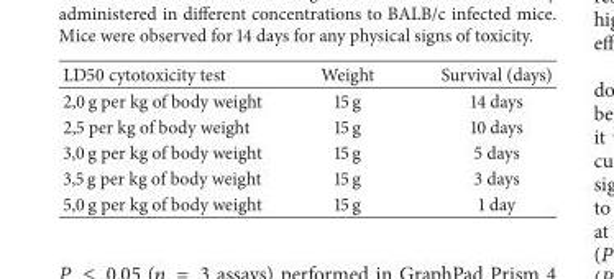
<table><thead><tr><td>LD50 cytotoxicity test</td><td>Weight</td><td>Survival (days)</td></tr></thead><tbody><tr><td>2,0 g per kg of body weight</td><td>15 g</td><td>14 days</td></tr><tr><td>2,5 per kg of body weight</td><td>15 g</td><td>10 days</td></tr><tr><td>3,0 g per kg of body weight</td><td>15 g</td><td>5 days</td></tr><tr><td>3,5 g per kg of body weight</td><td>15 g</td><td>3 days</td></tr><tr><td>5,0 g per kg of body weight</td><td>15 g</td><td>1 day</td></tr></tbody></table>